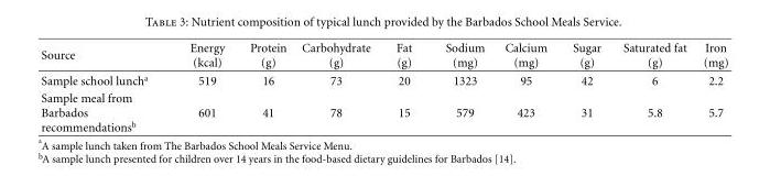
<table><thead><tr><td>Source</td><td>Energy (kcal)</td><td>Protein (g)</td><td>Carbohydrate (g)</td><td>Fat (g)</td><td>Sodium (mg)</td><td>Calcium (mg)</td><td>Sugar (g)</td><td>Saturated fat (g)</td><td>Iron (mg)</td></tr></thead><tbody><tr><td>Sample school lunch<sup>a</sup></td><td>519</td><td>16</td><td>73</td><td>20</td><td>1323</td><td>95</td><td>42</td><td>6</td><td>2.2</td></tr><tr><td>Sample meal from Barbados recommendations<sup>b</sup></td><td>601</td><td>41</td><td>78</td><td>15</td><td>579</td><td>423</td><td>31</td><td>5.8</td><td>5.7</td></tr></tbody></table>